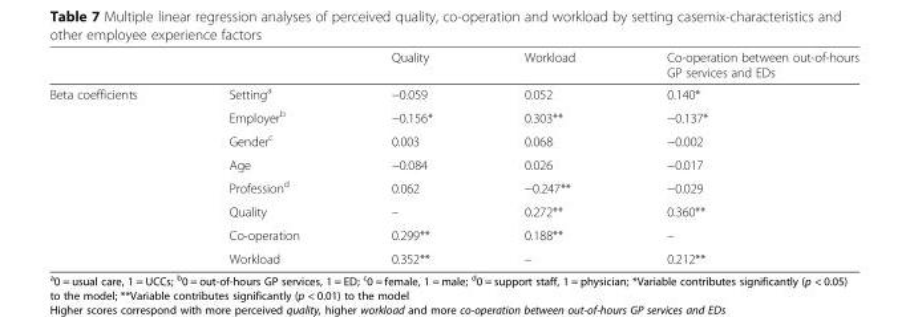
<table><thead><tr><td></td><td></td><td>Quality</td><td>Workload</td><td>Co-operation between out-of-hours GP services and EDs</td></tr></thead><tbody><tr><td rowspan="8">Beta coefficients</td><td>Setting<sup>a</sup></td><td>−0.059</td><td>0.052</td><td>0.140*</td></tr><tr><td>Employer<sup>b</sup></td><td>−0.156*</td><td>0.303**</td><td>−0.137*</td></tr><tr><td>Gender<sup>c</sup></td><td>0.003</td><td>0.068</td><td>−0.002</td></tr><tr><td>Age</td><td>−0.084</td><td>0.026</td><td>−0.017</td></tr><tr><td>Profession<sup>d</sup></td><td>0.062</td><td>−0.247**</td><td>−0.029</td></tr><tr><td>Quality</td><td>–</td><td>0.272**</td><td>0.360**</td></tr><tr><td>Co-operation</td><td>0.299**</td><td>0.188**</td><td>–</td></tr><tr><td>Workload</td><td>0.352**</td><td>–</td><td>0.212**</td></tr></tbody></table>